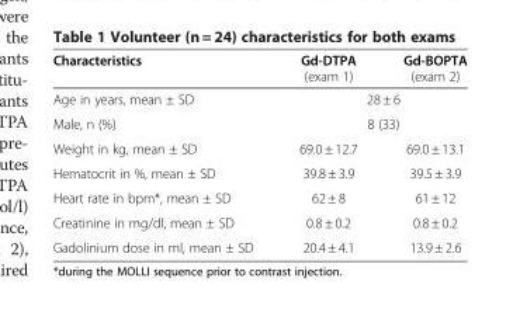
<table><thead><tr><td>Characteristics</td><td>Gd-DTPA</td><td>Gd-BOPTA</td></tr></thead><tbody><tr><td></td><td>(exam 1)</td><td>(exam 2)</td></tr><tr><td>Age in years, mean ± SD</td><td colspan="2">28 ± 6</td></tr><tr><td>Male, n (%)</td><td colspan="2">8 (33)</td></tr><tr><td>Weight in kg, mean ± SD</td><td>69.0 ± 12.7</td><td>69.0 ± 13.1</td></tr><tr><td>Hematocrit in %, mean ± SD</td><td>39.8 ± 3.9</td><td>39.5 ± 3.9</td></tr><tr><td>Heart rate in bpm*, mean ± SD</td><td>62 ± 8</td><td>61 ± 12</td></tr><tr><td>Creatinine in mg/dl, mean ± SD</td><td>0.8 ± 0.2</td><td>0.8 ± 0.2</td></tr><tr><td>Gadolinium dose in ml, mean ± SD</td><td>20.4 ± 4.1</td><td>13.9 ± 2.6</td></tr></tbody></table>